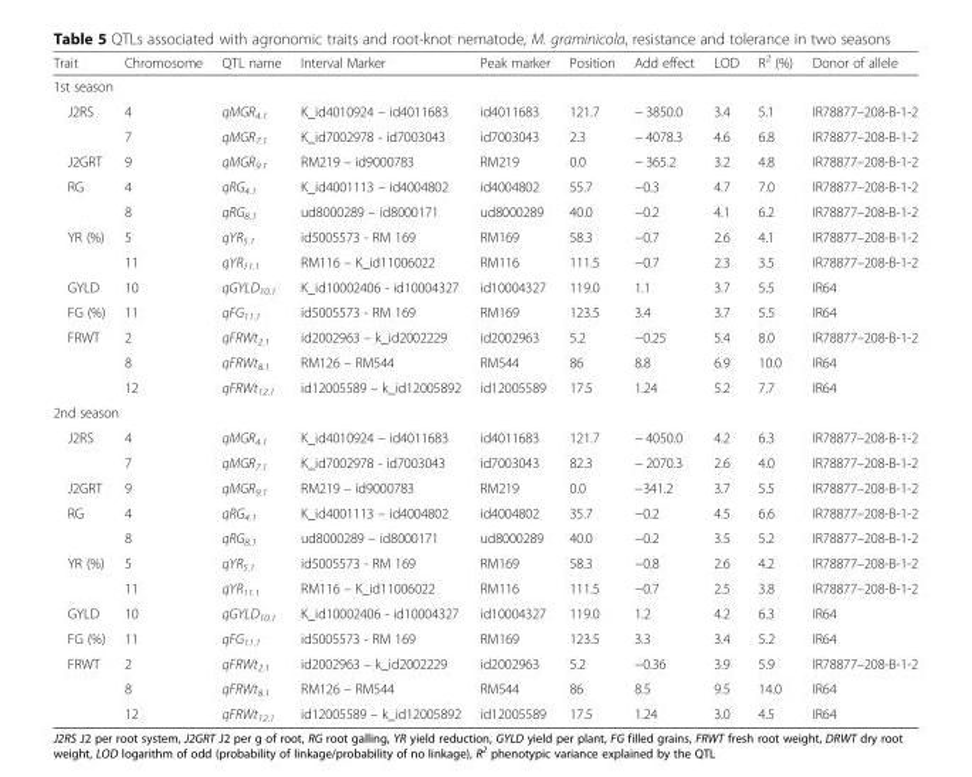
<table><thead><tr><td>Trait</td><td>Chromosome</td><td>QTL name</td><td>Interval Marker</td><td>Peak marker</td><td>Position</td><td>Add effect</td><td>LOD</td><td>R<sup>2</sup> (%)</td><td>Donor of allele</td></tr></thead><tbody><tr><td colspan="10">1st season</td></tr><tr><td rowspan="2">J2RS</td><td>4</td><td>qMGR<sub>4.1</sub></td><td>K_id4010924 – id4011683</td><td>id4011683</td><td>121.7</td><td>− 3850.0</td><td>3.4</td><td>5.1</td><td>IR78877–208-B-1-2</td></tr><tr><td>7</td><td>qMGR<sub>7.1</sub></td><td>K_id7002978 - id7003043</td><td>id7003043</td><td>2.3</td><td>− 4078.3</td><td>4.6</td><td>6.8</td><td>IR78877–208-B-1-2</td></tr><tr><td>J2GRT</td><td>9</td><td>qMGR<sub>9.1</sub></td><td>RM219 – id9000783</td><td>RM219</td><td>0.0</td><td>− 365.2</td><td>3.2</td><td>4.8</td><td>IR78877–208-B-1-2</td></tr><tr><td rowspan="2">RG</td><td>4</td><td>qRG<sub>4.1</sub></td><td>K_id4001113 – id4004802</td><td>id4004802</td><td>55.7</td><td>−0.3</td><td>4.7</td><td>7.0</td><td>IR78877–208-B-1-2</td></tr><tr><td>8</td><td>qRG<sub>8.1</sub></td><td>ud8000289 – id8000171</td><td>ud8000289</td><td>40.0</td><td>−0.2</td><td>4.1</td><td>6.2</td><td>IR78877–208-B-1-2</td></tr><tr><td rowspan="2">YR (%)</td><td>5</td><td>qYR<sub>5.1</sub></td><td>id5005573 - RM 169</td><td>RM169</td><td>58.3</td><td>−0.7</td><td>2.6</td><td>4.1</td><td>IR78877–208-B-1-2</td></tr><tr><td>11</td><td>qYR<sub>11.1</sub></td><td>RM116 – K_id11006022</td><td>RM116</td><td>111.5</td><td>−0.7</td><td>2.3</td><td>3.5</td><td>IR78877–208-B-1-2</td></tr><tr><td>GYLD</td><td>10</td><td>qGYLD<sub>10.1</sub></td><td>K_id10002406 - id10004327</td><td>id10004327</td><td>119.0</td><td>1.1</td><td>3.7</td><td>5.5</td><td>IR64</td></tr><tr><td>FG (%)</td><td>11</td><td>qFG<sub>11.1</sub></td><td>id5005573 - RM 169</td><td>RM169</td><td>123.5</td><td>3.4</td><td>3.7</td><td>5.5</td><td>IR64</td></tr><tr><td rowspan="3">FRWT</td><td>2</td><td>qFRWt<sub>2.1</sub></td><td>id2002963 – k_id2002229</td><td>id2002963</td><td>5.2</td><td>−0.25</td><td>5.4</td><td>8.0</td><td>IR78877–208-B-1-2</td></tr><tr><td>8</td><td>qFRWt<sub>8.1</sub></td><td>RM126 – RM544</td><td>RM544</td><td>86</td><td>8.8</td><td>6.9</td><td>10.0</td><td>IR64</td></tr><tr><td>12</td><td>qFRWt<sub>12.1</sub></td><td>id12005589 – k_id12005892</td><td>id12005589</td><td>17.5</td><td>1.24</td><td>5.2</td><td>7.7</td><td>IR64</td></tr><tr><td colspan="10">2nd season</td></tr><tr><td rowspan="2">J2RS</td><td>4</td><td>qMGR<sub>4.1</sub></td><td>K_id4010924 – id4011683</td><td>id4011683</td><td>121.7</td><td>− 4050.0</td><td>4.2</td><td>6.3</td><td>IR78877–208-B-1-2</td></tr><tr><td>7</td><td>qMGR<sub>7.1</sub></td><td>K_id7002978 - id7003043</td><td>id7003043</td><td>82.3</td><td>− 2070.3</td><td>2.6</td><td>4.0</td><td>IR78877–208-B-1-2</td></tr><tr><td>J2GRT</td><td>9</td><td>qMGR<sub>9.1</sub></td><td>RM219 – id9000783</td><td>RM219</td><td>0.0</td><td>−341.2</td><td>3.7</td><td>5.5</td><td>IR78877–208-B-1-2</td></tr><tr><td rowspan="2">RG</td><td>4</td><td>qRG<sub>4.1</sub></td><td>K_id4001113 – id4004802</td><td>id4004802</td><td>35.7</td><td>−0.2</td><td>4.5</td><td>6.6</td><td>IR78877–208-B-1-2</td></tr><tr><td>8</td><td>qRG<sub>8.1</sub></td><td>ud8000289 – id8000171</td><td>ud8000289</td><td>40.0</td><td>−0.2</td><td>3.5</td><td>5.2</td><td>IR78877–208-B-1-2</td></tr><tr><td rowspan="2">YR (%)</td><td>5</td><td>qYR<sub>5.1</sub></td><td>id5005573 - RM 169</td><td>RM169</td><td>58.3</td><td>−0.8</td><td>2.6</td><td>4.2</td><td>IR78877–208-B-1-2</td></tr><tr><td>11</td><td>qYR<sub>11.1</sub></td><td>RM116 – K_id11006022</td><td>RM116</td><td>111.5</td><td>−0.7</td><td>2.5</td><td>3.8</td><td>IR78877–208-B-1-2</td></tr><tr><td>GYLD</td><td>10</td><td>qGYLD<sub>10.1</sub></td><td>K_id10002406 - id10004327</td><td>id10004327</td><td>119.0</td><td>1.2</td><td>4.2</td><td>6.3</td><td>IR64</td></tr><tr><td>FG (%)</td><td>11</td><td>qFG<sub>11.1</sub></td><td>id5005573 - RM 169</td><td>RM169</td><td>123.5</td><td>3.3</td><td>3.4</td><td>5.2</td><td>IR64</td></tr><tr><td rowspan="3">FRWT</td><td>2</td><td>qFRWt<sub>2.1</sub></td><td>id2002963 – k_id2002229</td><td>id2002963</td><td>5.2</td><td>−0.36</td><td>3.9</td><td>5.9</td><td>IR78877–208-B-1-2</td></tr><tr><td>8</td><td>qFRWt<sub>8.1</sub></td><td>RM126 – RM544</td><td>RM544</td><td>86</td><td>8.5</td><td>9.5</td><td>14.0</td><td>IR64</td></tr><tr><td>12</td><td>qFRWt<sub>12.1</sub></td><td>id12005589 – k_id12005892</td><td>id12005589</td><td>17.5</td><td>1.24</td><td>3.0</td><td>4.5</td><td>IR64</td></tr></tbody></table>